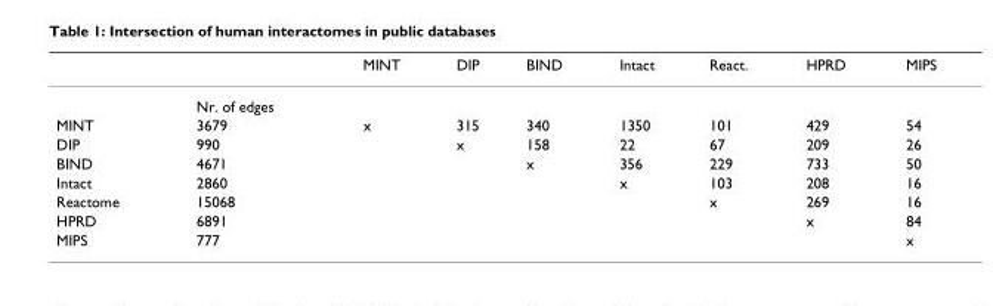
<table><thead><tr><td></td><td></td><td>MINT</td><td>DIP</td><td>BIND</td><td>Intact</td><td>React.</td><td>HPRD</td><td>MIPS</td></tr></thead><tbody><tr><td></td><td>Nr. of edges</td><td></td><td></td><td></td><td></td><td></td><td></td><td></td></tr><tr><td>MINT</td><td>3679</td><td>x</td><td>315</td><td>340</td><td>1350</td><td>101</td><td>429</td><td>54</td></tr><tr><td>DIP</td><td>990</td><td></td><td>x</td><td>158</td><td>22</td><td>67</td><td>209</td><td>26</td></tr><tr><td>BIND</td><td>4671</td><td></td><td></td><td>x</td><td>356</td><td>229</td><td>733</td><td>50</td></tr><tr><td>Intact</td><td>2860</td><td></td><td></td><td></td><td>x</td><td>103</td><td>208</td><td>16</td></tr><tr><td>Reactome</td><td>15068</td><td></td><td></td><td></td><td></td><td>x</td><td>269</td><td>16</td></tr><tr><td>HPRD</td><td>6891</td><td></td><td></td><td></td><td></td><td></td><td>x</td><td>84</td></tr><tr><td>MIPS</td><td>777</td><td></td><td></td><td></td><td></td><td></td><td></td><td>x</td></tr></tbody></table>